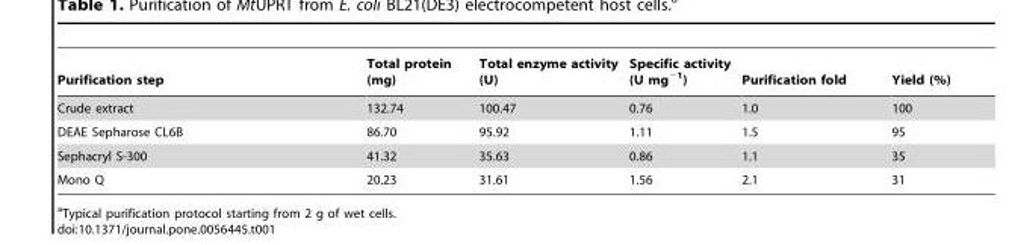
<table><thead><tr><td>Purification step</td><td>Total protein (mg)</td><td>Total enzyme activity (U)</td><td>Specific activity (U mg<sup>−1</sup>)</td><td>Purification fold</td><td>Yield (%)</td></tr></thead><tbody><tr><td>Crude extract</td><td>132.74</td><td>100.47</td><td>0.76</td><td>1.0</td><td>100</td></tr><tr><td>DEAE Sepharose CL6B</td><td>86.70</td><td>95.92</td><td>1.11</td><td>1.5</td><td>95</td></tr><tr><td>Sephacryl S-300</td><td>41.32</td><td>35.63</td><td>0.86</td><td>1.1</td><td>35</td></tr><tr><td>Mono Q</td><td>20.23</td><td>31.61</td><td>1.56</td><td>2.1</td><td>31</td></tr></tbody></table>